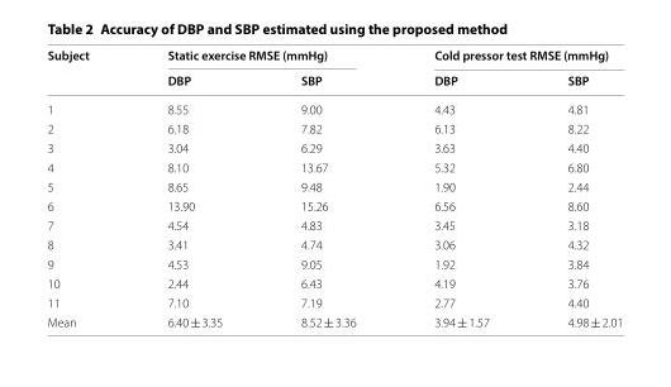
<table><thead><tr><td rowspan="2">Subject</td><td colspan="2">Static exercise RMSE (mmHg)</td><td colspan="2">Cold pressor test RMSE (mmHg)</td></tr><tr><td>DBP</td><td>SBP</td><td>DBP</td><td>SBP</td></tr></thead><tbody><tr><td>1</td><td>8.55</td><td>9.00</td><td>4.43</td><td>4.81</td></tr><tr><td>2</td><td>6.18</td><td>7.82</td><td>6.13</td><td>8.22</td></tr><tr><td>3</td><td>3.04</td><td>6.29</td><td>3.63</td><td>4.40</td></tr><tr><td>4</td><td>8.10</td><td>13.67</td><td>5.32</td><td>6.80</td></tr><tr><td>5</td><td>8.65</td><td>9.48</td><td>1.90</td><td>2.44</td></tr><tr><td>6</td><td>13.90</td><td>15.26</td><td>6.56</td><td>8.60</td></tr><tr><td>7</td><td>4.54</td><td>4.83</td><td>3.45</td><td>3.18</td></tr><tr><td>8</td><td>3.41</td><td>4.74</td><td>3.06</td><td>4.32</td></tr><tr><td>9</td><td>4.53</td><td>9.05</td><td>1.92</td><td>3.84</td></tr><tr><td>10</td><td>2.44</td><td>6.43</td><td>4.19</td><td>3.76</td></tr><tr><td>11</td><td>7.10</td><td>7.19</td><td>2.77</td><td>4.40</td></tr><tr><td>Mean</td><td>6.40 ± 3.35</td><td>8.52 ± 3.36</td><td>3.94 ± 1.57</td><td>4.98 ± 2.01</td></tr></tbody></table>